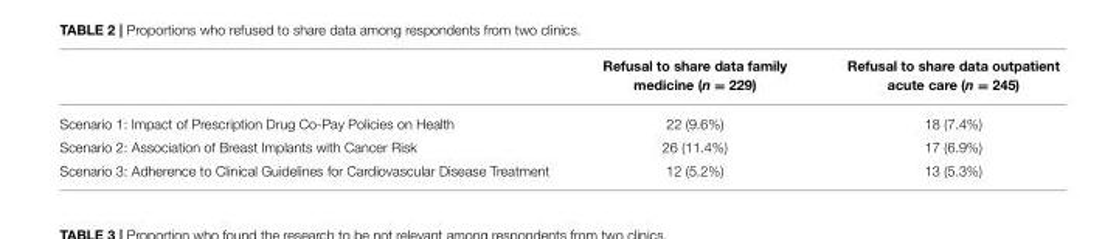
<table><thead><tr><td></td><td>Refusal to share data family medicine (n = 229)</td><td>Refusal to share data outpatient acute care (n = 245)</td></tr></thead><tbody><tr><td>Scenario 1: Impact of Prescription Drug Co-Pay Policies on Health</td><td>22 (9.6%)</td><td>18 (7.4%)</td></tr><tr><td>Scenario 2: Association of Breast Implants with Cancer Risk</td><td>26 (11.4%)</td><td>17 (6.9%)</td></tr><tr><td>Scenario 3: Adherence to Clinical Guidelines for Cardiovascular Disease Treatment</td><td>12 (5.2%)</td><td>13 (5.3%)</td></tr></tbody></table>